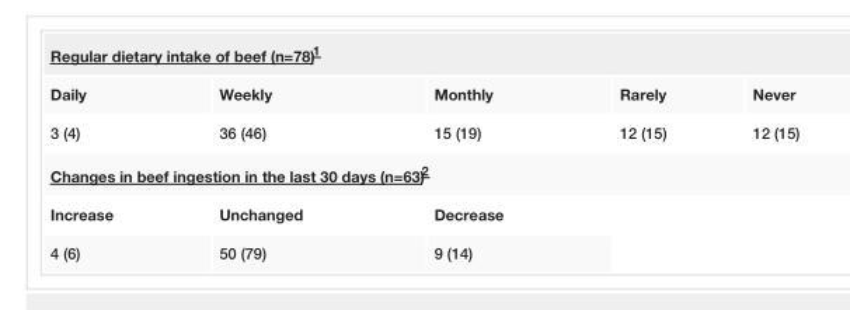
<table><tbody><tr><td colspan="5">Regular dietary intake of beef (n=78)<sup>1</sup></td></tr><tr><td>Daily</td><td>Weekly</td><td>Monthly</td><td>Rarely</td><td>Never</td></tr><tr><td>3 (4)</td><td>36 (46)</td><td>15 (19)</td><td>12 (15)</td><td>12 (15)</td></tr><tr><td colspan="5">Changes in beef ingestion in the last 30 days (n=63)<sup>2</sup></td></tr><tr><td>Increase</td><td>Unchanged</td><td>Decrease</td><td rowspan="2" colspan="2"></td></tr><tr><td>4 (6)</td><td>50 (79)</td><td>9 (14)</td></tr></tbody></table>